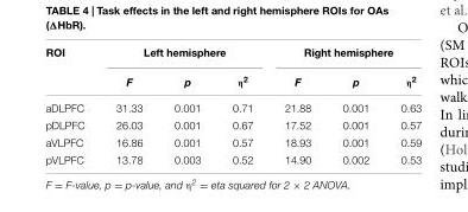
<table><thead><tr><td rowspan="2">ROI</td><td colspan="3">Left hemisphere</td><td colspan="3">Right hemisphere</td></tr><tr><td>F</td><td>p</td><td>η<sup>2</sup></td><td>F</td><td>p</td><td>η<sup>2</sup></td></tr></thead><tbody><tr><td>aDLPFC</td><td>31.33</td><td>0.001</td><td>0.71</td><td>21.88</td><td>0.001</td><td>0.63</td></tr><tr><td>pDLPFC</td><td>26.03</td><td>0.001</td><td>0.67</td><td>17.52</td><td>0.001</td><td>0.57</td></tr><tr><td>aVLPFC</td><td>16.86</td><td>0.001</td><td>0.57</td><td>18.93</td><td>0.001</td><td>0.59</td></tr><tr><td>pVLPFC</td><td>13.78</td><td>0.003</td><td>0.52</td><td>14.90</td><td>0.002</td><td>0.53</td></tr></tbody></table>